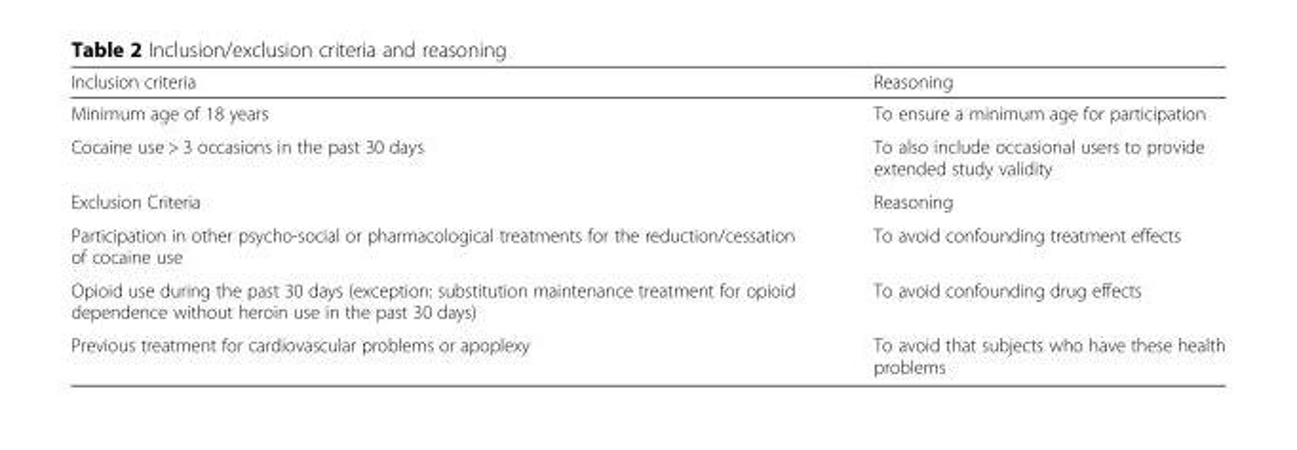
<table><thead><tr><td>Inclusion criteria</td><td>Reasoning</td></tr></thead><tbody><tr><td>Minimum age of 18 years</td><td>To ensure a minimum age for participation</td></tr><tr><td>Cocaine use &gt; 3 occasions in the past 30 days</td><td>To also include occasional users to provide extended study validity</td></tr><tr><td>Exclusion Criteria</td><td>Reasoning</td></tr><tr><td>Participation in other psycho-social or pharmacological treatments for the reduction/cessation of cocaine use</td><td>To avoid confounding treatment effects</td></tr><tr><td>Opioid use during the past 30 days (exception: substitution maintenance treatment for opioid dependence without heroin use in the past 30 days)</td><td>To avoid confounding drug effects</td></tr><tr><td>Previous treatment for cardiovascular problems or apoplexy</td><td>To avoid that subjects who have these health problems</td></tr></tbody></table>